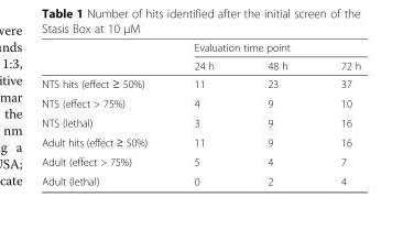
<table><thead><tr><td rowspan="2"></td><td colspan="3">Evaluation time point</td></tr><tr><td>24 h</td><td>48 h</td><td>72 h</td></tr></thead><tbody><tr><td>NTS hits (effect ≥ 50%)</td><td>11</td><td>23</td><td>37</td></tr><tr><td>NTS (effect &gt; 75%)</td><td>4</td><td>9</td><td>10</td></tr><tr><td>NTS (lethal)</td><td>3</td><td>9</td><td>16</td></tr><tr><td>Adult hits (effect ≥ 50%)</td><td>11</td><td>9</td><td>16</td></tr><tr><td>Adult (effect &gt; 75%)</td><td>5</td><td>4</td><td>7</td></tr><tr><td>Adult (lethal)</td><td>0</td><td>2</td><td>4</td></tr></tbody></table>